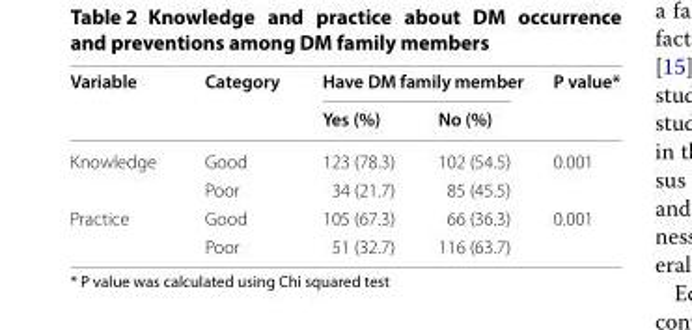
<table><thead><tr><td rowspan="2">Variable</td><td rowspan="2">Category</td><td colspan="2">Have DM family member</td><td rowspan="2">P value*</td></tr><tr><td>Yes (%)</td><td>No (%)</td></tr></thead><tbody><tr><td rowspan="2">Knowledge</td><td>Good</td><td>123 (78.3)</td><td>102 (54.5)</td><td rowspan="2">0.001</td></tr><tr><td>Poor</td><td>34 (21.7)</td><td>85 (45.5)</td></tr><tr><td rowspan="2">Practice</td><td>Good</td><td>105 (67.3)</td><td>66 (36.3)</td><td rowspan="2">0.001</td></tr><tr><td>Poor</td><td>51 (32.7)</td><td>116 (63.7)</td></tr></tbody></table>